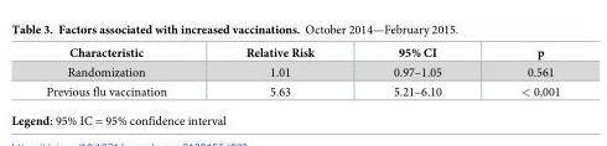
<table><thead><tr><td>Characteristic</td><td>Relative Risk</td><td>95% CI</td><td>p</td></tr></thead><tbody><tr><td>Randomization</td><td>1.01</td><td>0.97–1.05</td><td>0.561</td></tr><tr><td>Previous flu vaccination</td><td>5.63</td><td>5.21–6.10</td><td>&lt; 0,001</td></tr></tbody></table>